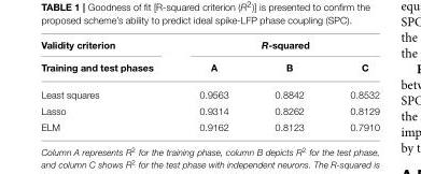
<table><thead><tr><td rowspan="2">Validity criterion Training and test phases</td><td colspan="3">R-squared</td></tr><tr><td>A</td><td>B</td><td>C</td></tr></thead><tbody><tr><td>Least squares</td><td>0.9563</td><td>0.8842</td><td>0.8532</td></tr><tr><td>Lasso</td><td>0.9314</td><td>0.8262</td><td>0.8129</td></tr><tr><td>ELM</td><td>0.9162</td><td>0.8123</td><td>0.7910</td></tr></tbody></table>